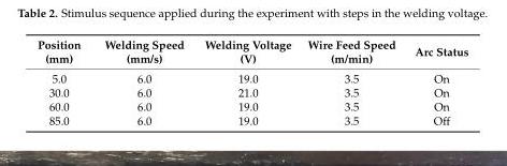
<table><thead><tr><td>Position (mm)</td><td>Welding Speed (mm/s)</td><td>Welding Voltage (V)</td><td>Wire Feed Speed (m/min)</td><td>Arc Status</td></tr></thead><tbody><tr><td>5.0</td><td>6.0</td><td>19.0</td><td>3.5</td><td>On</td></tr><tr><td>30.0</td><td>6.0</td><td>21.0</td><td>3.5</td><td>On</td></tr><tr><td>60.0</td><td>6.0</td><td>19.0</td><td>3.5</td><td>On</td></tr><tr><td>85.0</td><td>6.0</td><td>19.0</td><td>3.5</td><td>Off</td></tr></tbody></table>